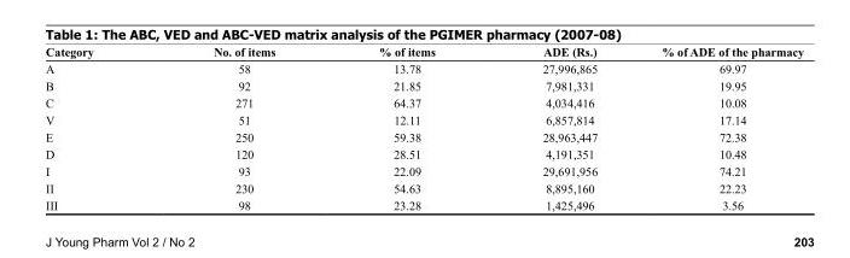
<table><thead><tr><td>Category</td><td>No. of items</td><td>% of items</td><td>ADE (Rs.)</td><td>% of ADE of the pharmacy</td></tr></thead><tbody><tr><td>A</td><td>58</td><td>13.78</td><td>27,996,865</td><td>69.97</td></tr><tr><td>B</td><td>92</td><td>21.85</td><td>7,981,331</td><td>19.95</td></tr><tr><td>C</td><td>271</td><td>64.37</td><td>4,034,416</td><td>10.08</td></tr><tr><td>V</td><td>51</td><td>12.11</td><td>6,857,814</td><td>17.14</td></tr><tr><td>E</td><td>250</td><td>59.38</td><td>28,963,447</td><td>72.38</td></tr><tr><td>D</td><td>120</td><td>28.51</td><td>4,191,351</td><td>10.48</td></tr><tr><td>I</td><td>93</td><td>22.09</td><td>29,691,956</td><td>74.21</td></tr><tr><td>II</td><td>230</td><td>54.63</td><td>8,895,160</td><td>22.23</td></tr><tr><td>III</td><td>98</td><td>23.28</td><td>1,425,496</td><td>3.56</td></tr></tbody></table>